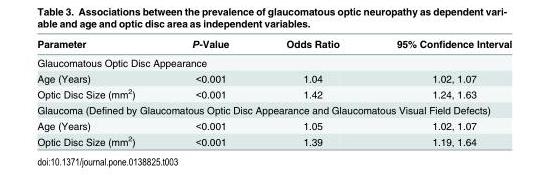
<table><thead><tr><td>Parameter</td><td>P-Value</td><td>Odds Ratio</td><td>95% Confidence Interval</td></tr></thead><tbody><tr><td colspan="4">Glaucomatous Optic Disc Appearance</td></tr><tr><td>Age (Years)</td><td>&lt;0.001</td><td>1.04</td><td>1.02, 1.07</td></tr><tr><td>Optic Disc Size (mm<sup>2</sup>)</td><td>&lt;0.001</td><td>1.42</td><td>1.24, 1.63</td></tr><tr><td colspan="4">Glaucoma (Defined by Glaucomatous Optic Disc Appearance and Glaucomatous Visual Field Defects)</td></tr><tr><td>Age (Years)</td><td>&lt;0.001</td><td>1.05</td><td>1.02, 1.07</td></tr><tr><td>Optic Disc Size (mm<sup>2</sup>)</td><td>&lt;0.001</td><td>1.39</td><td>1.19, 1.64</td></tr></tbody></table>